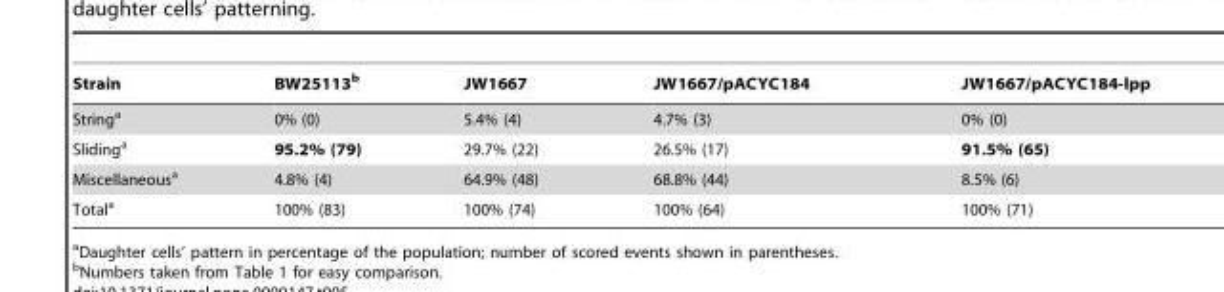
<table><thead><tr><td>Strain</td><td>BW25113<sup>b</sup></td><td>JW1667</td><td>JW1667/pACYC184</td><td>JW1667/pACYC184-lpp</td></tr></thead><tbody><tr><td>String<sup>a</sup></td><td>0% (0)</td><td>5.4% (4)</td><td>4.7% (3)</td><td>0% (0)</td></tr><tr><td>Sliding<sup>a</sup></td><td>95.2% (79)</td><td>29.7% (22)</td><td>26.5% (17)</td><td>91.5% (65)</td></tr><tr><td>Miscellaneous<sup>a</sup></td><td>4.8% (4)</td><td>64.9% (48)</td><td>68.8% (44)</td><td>8.5% (6)</td></tr><tr><td>Total<sup>a</sup></td><td>100% (83)</td><td>100% (74)</td><td>100% (64)</td><td>100% (71)</td></tr></tbody></table>